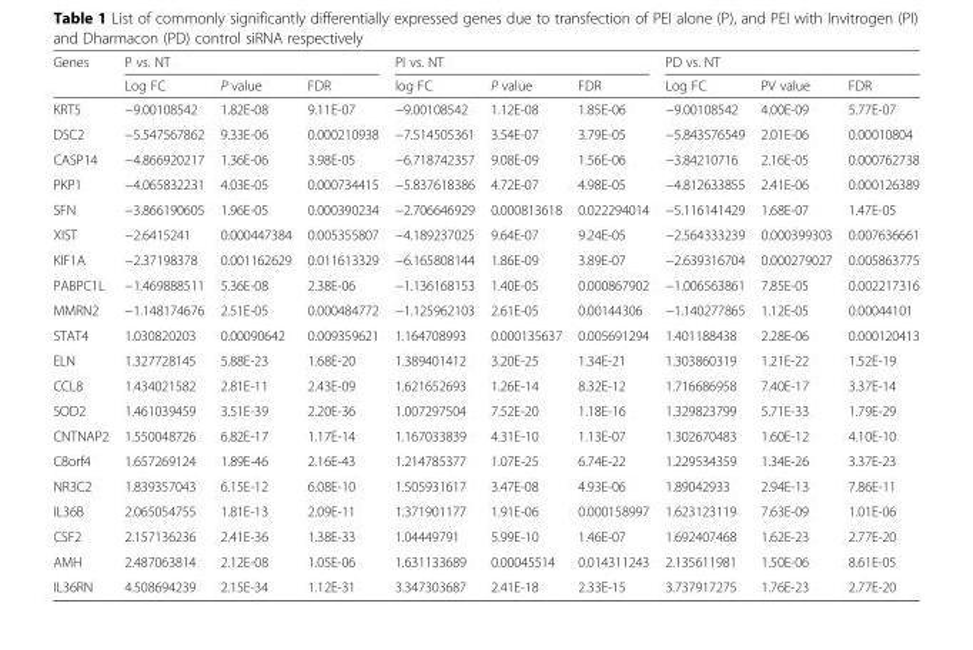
<table><thead><tr><td rowspan="2">Genes</td><td colspan="3">P vs. NT</td><td colspan="3">PI vs. NT</td><td colspan="3">PD vs. NT</td></tr><tr><td>Log FC</td><td>P value</td><td>FDR</td><td>log FC</td><td>P value</td><td>FDR</td><td>Log FC</td><td>PV value</td><td>FDR</td></tr></thead><tbody><tr><td>KRT5</td><td>−9.00108542</td><td>1.82E-08</td><td>9.11E-07</td><td>−9.00108542</td><td>1.12E-08</td><td>1.85E-06</td><td>−9.00108542</td><td>4.00E-09</td><td>5.77E-07</td></tr><tr><td>DSC2</td><td>−5.547567862</td><td>9.33E-06</td><td>0.000210938</td><td>−7.514505361</td><td>3.54E-07</td><td>3.79E-05</td><td>−5.843576549</td><td>2.01E-06</td><td>0.00010804</td></tr><tr><td>CASP14</td><td>−4.866920217</td><td>1.36E-06</td><td>3.98E-05</td><td>−6.718742357</td><td>9.08E-09</td><td>1.56E-06</td><td>−3.84210716</td><td>2.16E-05</td><td>0.000762738</td></tr><tr><td>PKP1</td><td>−4.065832231</td><td>4.03E-05</td><td>0.000734415</td><td>−5.837618386</td><td>4.72E-07</td><td>4.98E-05</td><td>−4.812633855</td><td>2.41E-06</td><td>0.000126389</td></tr><tr><td>SFN</td><td>−3.866190605</td><td>1.96E-05</td><td>0.000390234</td><td>−2.706646929</td><td>0.000813618</td><td>0.022294014</td><td>−5.116141429</td><td>1.68E-07</td><td>1.47E-05</td></tr><tr><td>XIST</td><td>−2.6415241</td><td>0.000447384</td><td>0.005355807</td><td>−4.189237025</td><td>9.64E-07</td><td>9.24E-05</td><td>−2.564333239</td><td>0.000399303</td><td>0.007636661</td></tr><tr><td>KIF1A</td><td>−2.37198378</td><td>0.001162629</td><td>0.011613329</td><td>−6.165808144</td><td>1.86E-09</td><td>3.89E-07</td><td>−2.639316704</td><td>0.000279027</td><td>0.005863775</td></tr><tr><td>PABPC1L</td><td>−1.469888511</td><td>5.36E-08</td><td>2.38E-06</td><td>−1.136168153</td><td>1.40E-05</td><td>0.000867902</td><td>−1.006563861</td><td>7.85E-05</td><td>0.002217316</td></tr><tr><td>MMRN2</td><td>−1.148174676</td><td>2.51E-05</td><td>0.000484772</td><td>−1.125962103</td><td>2.61E-05</td><td>0.00144306</td><td>−1.140277865</td><td>1.12E-05</td><td>0.00044101</td></tr><tr><td>STAT4</td><td>1.030820203</td><td>0.00090642</td><td>0.009359621</td><td>1.164708993</td><td>0.000135637</td><td>0.005691294</td><td>1.401188438</td><td>2.28E-06</td><td>0.000120413</td></tr><tr><td>ELN</td><td>1.327728145</td><td>5.88E-23</td><td>1.68E-20</td><td>1.389401412</td><td>3.20E-25</td><td>1.34E-21</td><td>1.303860319</td><td>1.21E-22</td><td>1.52E-19</td></tr><tr><td>CCL8</td><td>1.434021582</td><td>2.81E-11</td><td>2.43E-09</td><td>1.621652693</td><td>1.26E-14</td><td>8.32E-12</td><td>1.716686958</td><td>7.40E-17</td><td>3.37E-14</td></tr><tr><td>SOD2</td><td>1.461039459</td><td>3.51E-39</td><td>2.20E-36</td><td>1.007297504</td><td>7.52E-20</td><td>1.18E-16</td><td>1.329823799</td><td>5.71E-33</td><td>1.79E-29</td></tr><tr><td>CNTNAP2</td><td>1.550048726</td><td>6.82E-17</td><td>1.17E-14</td><td>1.167033839</td><td>4.31E-10</td><td>1.13E-07</td><td>1.302670483</td><td>1.60E-12</td><td>4.10E-10</td></tr><tr><td>C8orf4</td><td>1.657269124</td><td>1.89E-46</td><td>2.16E-43</td><td>1.214785377</td><td>1.07E-25</td><td>6.74E-22</td><td>1.229534359</td><td>1.34E-26</td><td>3.37E-23</td></tr><tr><td>NR3C2</td><td>1.839357043</td><td>6.15E-12</td><td>6.08E-10</td><td>1.505931617</td><td>3.47E-08</td><td>4.93E-06</td><td>1.89042933</td><td>2.94E-13</td><td>7.86E-11</td></tr><tr><td>IL36B</td><td>2.065054755</td><td>1.81E-13</td><td>2.09E-11</td><td>1.371901177</td><td>1.91E-06</td><td>0.000158997</td><td>1.623123119</td><td>7.63E-09</td><td>1.01E-06</td></tr><tr><td>CSF2</td><td>2.157136236</td><td>2.41E-36</td><td>1.38E-33</td><td>1.04449791</td><td>5.99E-10</td><td>1.46E-07</td><td>1.692407468</td><td>1.62E-23</td><td>2.77E-20</td></tr><tr><td>AMH</td><td>2.487063814</td><td>2.12E-08</td><td>1.05E-06</td><td>1.631133689</td><td>0.00045514</td><td>0.014311243</td><td>2.135611981</td><td>1.50E-06</td><td>8.61E-05</td></tr><tr><td>IL36RN</td><td>4.508694239</td><td>2.15E-34</td><td>1.12E-31</td><td>3.347303687</td><td>2.41E-18</td><td>2.33E-15</td><td>3.737917275</td><td>1.76E-23</td><td>2.77E-20</td></tr></tbody></table>